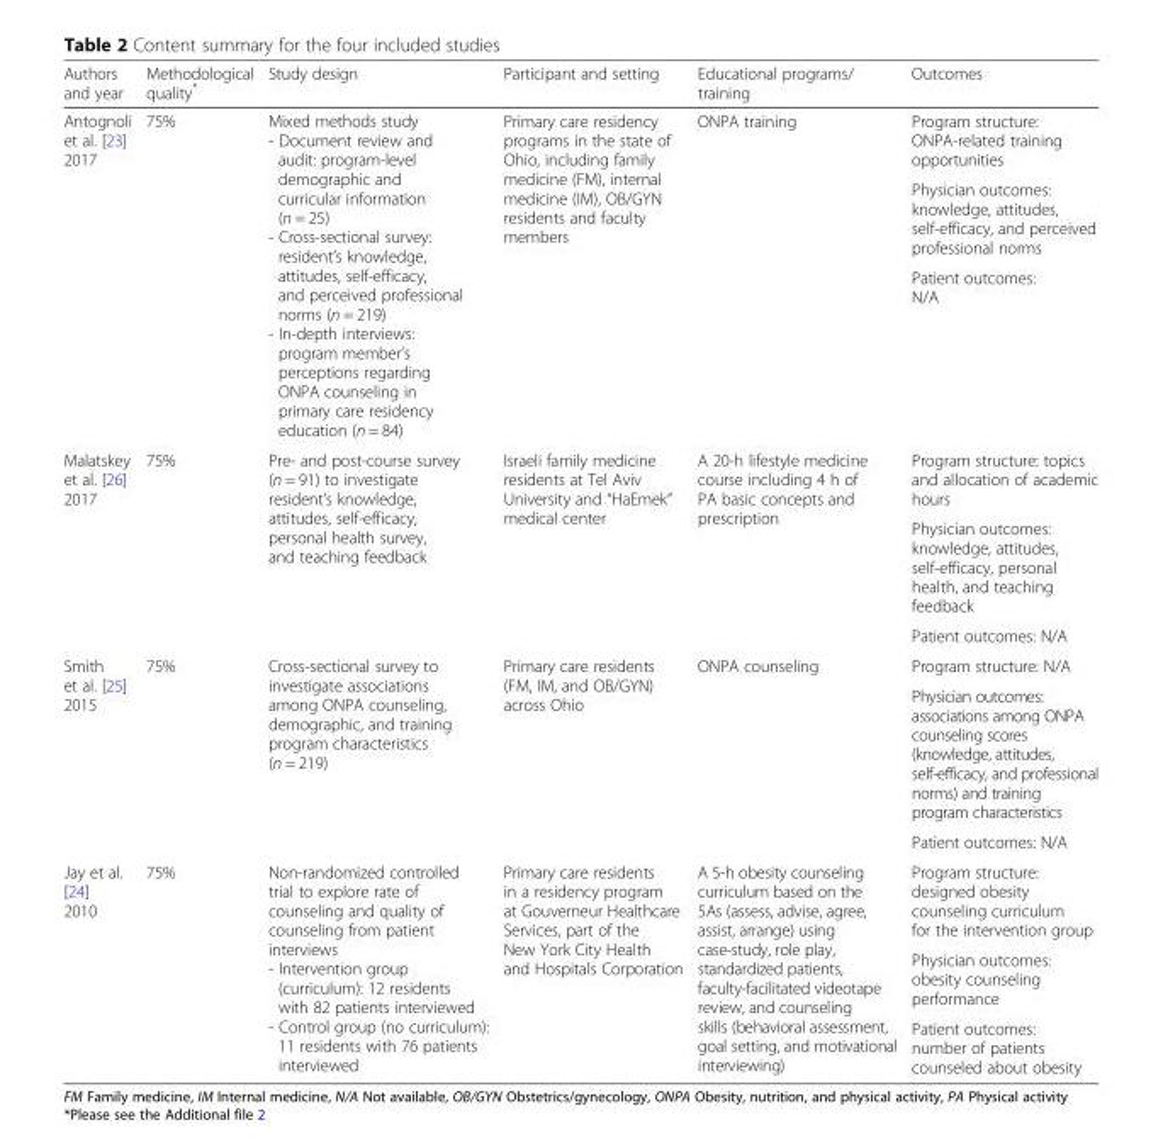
<table><thead><tr><td>Authors and year</td><td>Methodological quality*</td><td>Study design</td><td>Participant and setting</td><td>Educational programs/ training</td><td>Outcomes</td></tr></thead><tbody><tr><td rowspan="3">Antognoli et al. [23] 2017</td><td rowspan="3">75%</td><td rowspan="3">Mixed methods study - Document review and audit: program-level demographic and curricular information (n = 25) - Cross-sectional survey: resident’s knowledge, attitudes, self-efficacy, and perceived professional norms (n = 219) - In-depth interviews: program member’s perceptions regarding ONPA counseling in primary care residency education (n = 84)</td><td rowspan="3">Primary care residency programs in the state of Ohio, including family medicine (FM), internal medicine (IM), OB/GYN residents and faculty members</td><td rowspan="3">ONPA training</td><td>Program structure: ONPA-related training opportunities</td></tr><tr><td>Physician outcomes: knowledge, attitudes, self-efficacy, and perceived professional norms</td></tr><tr><td>Patient outcomes: N/A</td></tr><tr><td rowspan="3">Malatskey et al. [26] 2017</td><td rowspan="3">75%</td><td rowspan="3">Pre- and post-course survey (n = 91) to investigate resident’s knowledge, attitudes, self-efficacy, personal health survey, and teaching feedback</td><td rowspan="3">Israeli family medicine residents at Tel Aviv University and “HaEmek” medical center</td><td rowspan="3">A 20-h lifestyle medicine course including 4 h of PA basic concepts and prescription</td><td>Program structure: topics and allocation of academic hours</td></tr><tr><td>Physician outcomes: knowledge, attitudes, self-efficacy, personal health, and teaching feedback</td></tr><tr><td>Patient outcomes: N/A</td></tr><tr><td rowspan="3">Smith et al. [25] 2015</td><td rowspan="3">75%</td><td rowspan="3">Cross-sectional survey to investigate associations among ONPA counseling, demographic, and training program characteristics (n = 219)</td><td rowspan="3">Primary care residents (FM, IM, and OB/GYN) across Ohio</td><td rowspan="3">ONPA counseling</td><td>Program structure: N/A</td></tr><tr><td>Physician outcomes: associations among ONPA counseling scores (knowledge, attitudes, self-efficacy, and professional norms) and training program characteristics</td></tr><tr><td>Patient outcomes: N/A</td></tr><tr><td rowspan="3">Jay et al. [24] 2010</td><td rowspan="3">75%</td><td rowspan="3">Non-randomized controlled trial to explore rate of counseling and quality of counseling from patient interviews - Intervention group (curriculum): 12 residents with 82 patients interviewed - Control group (no curriculum): 11 residents with 76 patients interviewed</td><td rowspan="3">Primary care residents in a residency program at Gouverneur Healthcare Services, part of the New York City Health and Hospitals Corporation</td><td rowspan="3">A 5-h obesity counseling curriculum based on the 5As (assess, advise, agree, assist, arrange) using case-study, role play, standardized patients, faculty-facilitated videotape review, and counseling skills (behavioral assessment, goal setting, and motivational interviewing)</td><td>Program structure: designed obesity counseling curriculum for the intervention group</td></tr><tr><td>Physician outcomes: obesity counseling performance</td></tr><tr><td>Patient outcomes: number of patients counseled about obesity</td></tr></tbody></table>